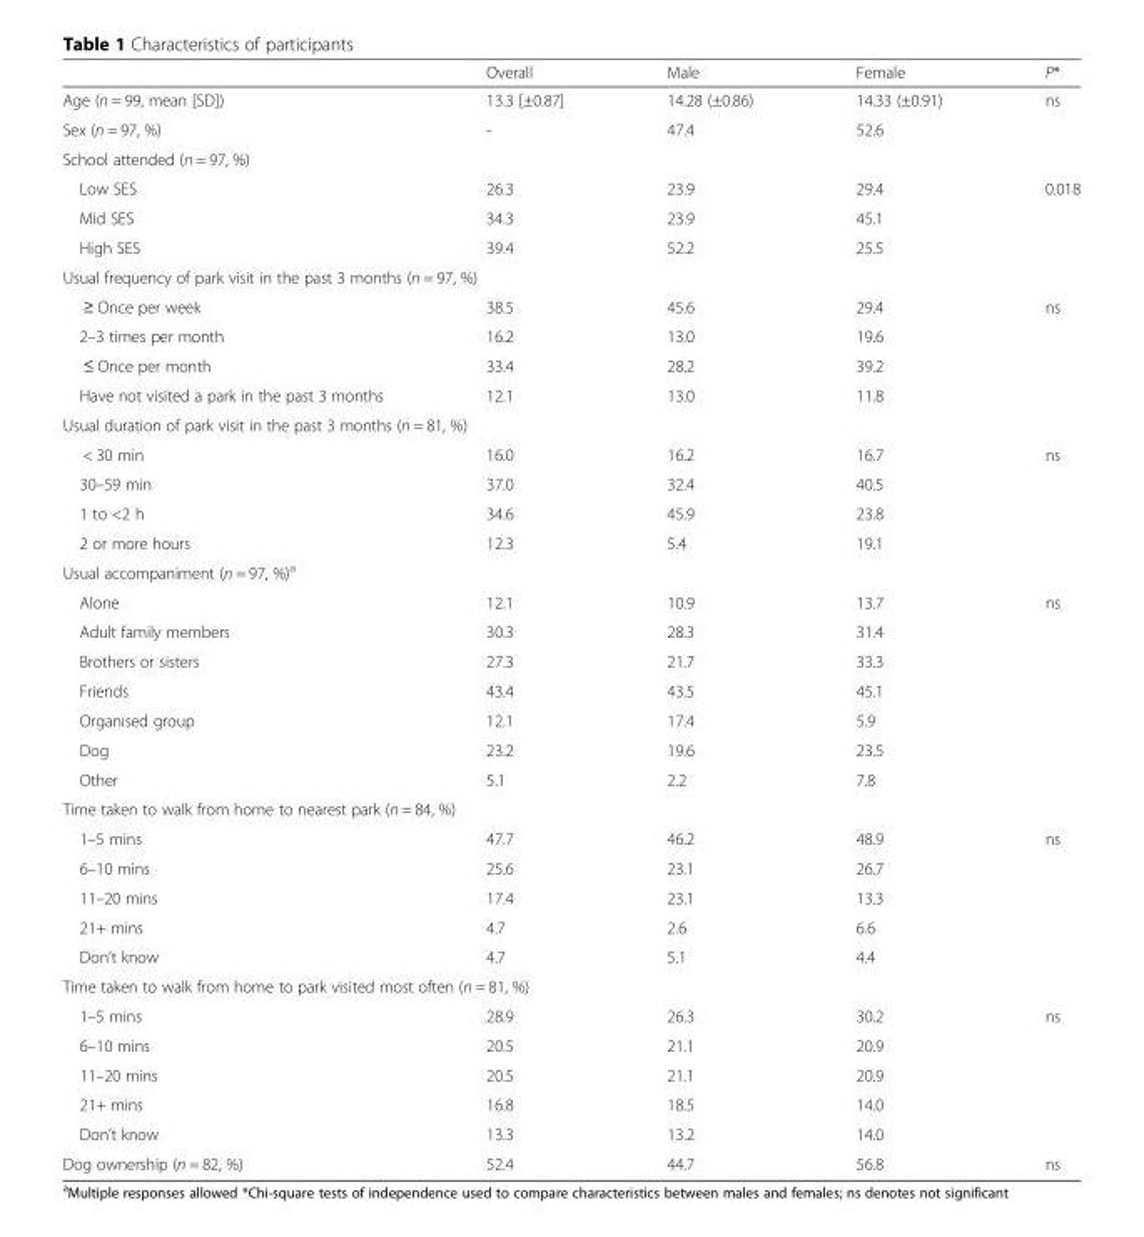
<table><thead><tr><td></td><td>Overall</td><td>Male</td><td>Female</td><td>P*</td></tr></thead><tbody><tr><td>Age (n = 99, mean [SD])</td><td>13.3 [±0.87]</td><td>14.28 (±0.86)</td><td>14.33 (±0.91)</td><td>ns</td></tr><tr><td>Sex (n = 97, %)</td><td>-</td><td>47.4</td><td>52.6</td><td></td></tr><tr><td colspan="5">School attended (n = 97, %)</td></tr><tr><td>Low SES</td><td>26.3</td><td>23.9</td><td>29.4</td><td>0.018</td></tr><tr><td>Mid SES</td><td>34.3</td><td>23.9</td><td>45.1</td><td></td></tr><tr><td>High SES</td><td>39.4</td><td>52.2</td><td>25.5</td><td></td></tr><tr><td colspan="5">Usual frequency of park visit in the past 3 months (n = 97, %)</td></tr><tr><td>≥ Once per week</td><td>38.5</td><td>45.6</td><td>29.4</td><td>ns</td></tr><tr><td>2–3 times per month</td><td>16.2</td><td>13.0</td><td>19.6</td><td></td></tr><tr><td>≤ Once per month</td><td>33.4</td><td>28.2</td><td>39.2</td><td></td></tr><tr><td>Have not visited a park in the past 3 months</td><td>12.1</td><td>13.0</td><td>11.8</td><td></td></tr><tr><td colspan="5">Usual duration of park visit in the past 3 months (n = 81, %)</td></tr><tr><td>&lt; 30 min</td><td>16.0</td><td>16.2</td><td>16.7</td><td>ns</td></tr><tr><td>30–59 min</td><td>37.0</td><td>32.4</td><td>40.5</td><td></td></tr><tr><td>1 to &lt;2 h</td><td>34.6</td><td>45.9</td><td>23.8</td><td></td></tr><tr><td>2 or more hours</td><td>12.3</td><td>5.4</td><td>19.1</td><td></td></tr><tr><td colspan="5">Usual accompaniment (n = 97, %)<sup>a</sup></td></tr><tr><td>Alone</td><td>12.1</td><td>10.9</td><td>13.7</td><td>ns</td></tr><tr><td>Adult family members</td><td>30.3</td><td>28.3</td><td>31.4</td><td></td></tr><tr><td>Brothers or sisters</td><td>27.3</td><td>21.7</td><td>33.3</td><td></td></tr><tr><td>Friends</td><td>43.4</td><td>43.5</td><td>45.1</td><td></td></tr><tr><td>Organised group</td><td>12.1</td><td>17.4</td><td>5.9</td><td></td></tr><tr><td>Dog</td><td>23.2</td><td>19.6</td><td>23.5</td><td></td></tr><tr><td>Other</td><td>5.1</td><td>2.2</td><td>7.8</td><td></td></tr><tr><td colspan="5">Time taken to walk from home to nearest park (n = 84, %)</td></tr><tr><td>1–5 mins</td><td>47.7</td><td>46.2</td><td>48.9</td><td>ns</td></tr><tr><td>6–10 mins</td><td>25.6</td><td>23.1</td><td>26.7</td><td></td></tr><tr><td>11–20 mins</td><td>17.4</td><td>23.1</td><td>13.3</td><td></td></tr><tr><td>21+ mins</td><td>4.7</td><td>2.6</td><td>6.6</td><td></td></tr><tr><td>Don’t know</td><td>4.7</td><td>5.1</td><td>4.4</td><td></td></tr><tr><td colspan="5">Time taken to walk from home to park visited most often (n = 81, %)</td></tr><tr><td>1–5 mins</td><td>28.9</td><td>26.3</td><td>30.2</td><td>ns</td></tr><tr><td>6–10 mins</td><td>20.5</td><td>21.1</td><td>20.9</td><td></td></tr><tr><td>11–20 mins</td><td>20.5</td><td>21.1</td><td>20.9</td><td></td></tr><tr><td>21+ mins</td><td>16.8</td><td>18.5</td><td>14.0</td><td></td></tr><tr><td>Don’t know</td><td>13.3</td><td>13.2</td><td>14.0</td><td></td></tr><tr><td>Dog ownership (n = 82, %)</td><td>52.4</td><td>44.7</td><td>56.8</td><td>ns</td></tr></tbody></table>